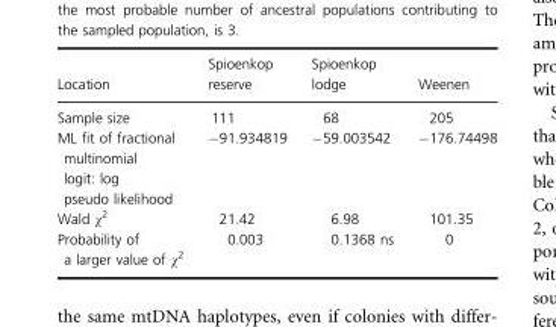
<table><thead><tr><td>Location</td><td>Spioenkop reserve</td><td>Spioenkop lodge</td><td>Weenen</td></tr></thead><tbody><tr><td>Sample size</td><td>111</td><td>68</td><td>205</td></tr><tr><td>ML fit of fractional multinomial logit: log pseudo likelihood</td><td>−91.934819</td><td>−59.003542</td><td>−176.74498</td></tr><tr><td>Wald χ<sup>2</sup></td><td>21.42</td><td>6.98</td><td>101.35</td></tr><tr><td>Probability of a larger value of χ<sup>2</sup></td><td>0.003</td><td>0.1368 ns</td><td>0</td></tr></tbody></table>